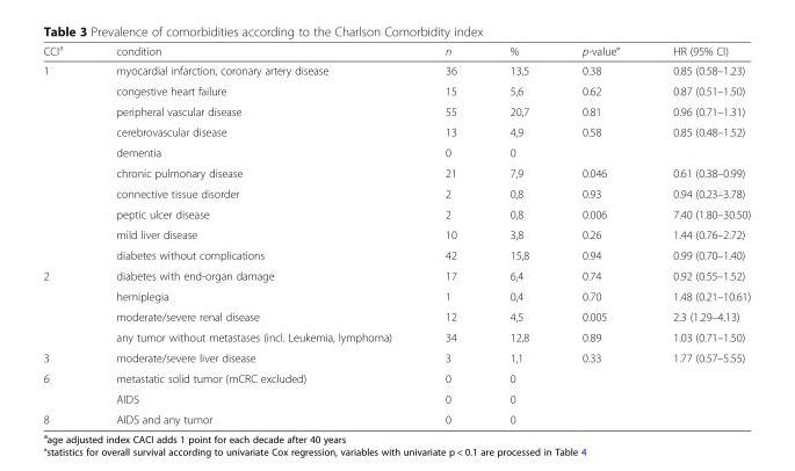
<table><thead><tr><td>CCI<sup>a</sup></td><td>condition</td><td>n</td><td>%</td><td>p-value°</td><td>HR (95% CI)</td></tr></thead><tbody><tr><td rowspan="10">1</td><td>myocardial infarction, coronary artery disease</td><td>36</td><td>13,5</td><td>0.38</td><td>0.85 (0.58–1.23)</td></tr><tr><td>congestive heart failure</td><td>15</td><td>5,6</td><td>0.62</td><td>0.87 (0.51–1.50)</td></tr><tr><td>peripheral vascular disease</td><td>55</td><td>20,7</td><td>0.81</td><td>0.96 (0.71–1.31)</td></tr><tr><td>cerebrovascular disease</td><td>13</td><td>4,9</td><td>0.58</td><td>0.85 (0.48–1.52)</td></tr><tr><td>dementia</td><td>0</td><td>0</td><td></td><td></td></tr><tr><td>chronic pulmonary disease</td><td>21</td><td>7,9</td><td>0.046</td><td>0.61 (0.38–0.99)</td></tr><tr><td>connective tissue disorder</td><td>2</td><td>0,8</td><td>0.93</td><td>0.94 (0.23–3.78)</td></tr><tr><td>peptic ulcer disease</td><td>2</td><td>0,8</td><td>0.006</td><td>7.40 (1.80–30.50)</td></tr><tr><td>mild liver disease</td><td>10</td><td>3,8</td><td>0.26</td><td>1.44 (0.76–2.72)</td></tr><tr><td>diabetes without complications</td><td>42</td><td>15,8</td><td>0.94</td><td>0.99 (0.70–1.40)</td></tr><tr><td rowspan="4">2</td><td>diabetes with end-organ damage</td><td>17</td><td>6,4</td><td>0.74</td><td>0.92 (0.55–1.52)</td></tr><tr><td>hemiplegia</td><td>1</td><td>0,4</td><td>0.70</td><td>1.48 (0.21–10.61)</td></tr><tr><td>moderate/severe renal disease</td><td>12</td><td>4,5</td><td>0.005</td><td>2.3 (1.29–4.13)</td></tr><tr><td>any tumor without metastases (incl. Leukemia, lymphoma)</td><td>34</td><td>12,8</td><td>0.89</td><td>1.03 (0.71–1.50)</td></tr><tr><td>3</td><td>moderate/severe liver disease</td><td>3</td><td>1,1</td><td>0.33</td><td>1.77 (0.57–5.55)</td></tr><tr><td rowspan="2">6</td><td>metastatic solid tumor (mCRC excluded)</td><td>0</td><td>0</td><td></td><td></td></tr><tr><td>AIDS</td><td>0</td><td>0</td><td></td><td></td></tr><tr><td>8</td><td>AIDS and any tumor</td><td>0</td><td>0</td><td></td><td></td></tr></tbody></table>